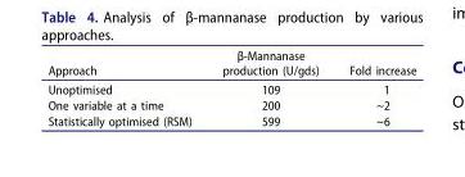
<table><thead><tr><td>Approach</td><td>β-Mannanase production (U/gds)</td><td>Fold increase</td></tr></thead><tbody><tr><td>Unoptimised</td><td>109</td><td>1</td></tr><tr><td>One variable at a time</td><td>200</td><td>~2</td></tr><tr><td>Statistically optimised (RSM)</td><td>599</td><td>~6</td></tr></tbody></table>